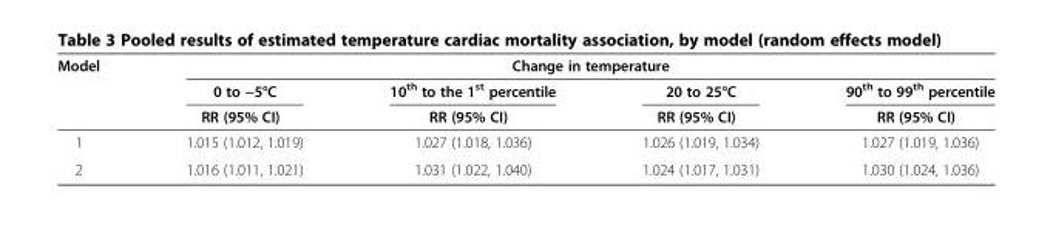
<table><thead><tr><td rowspan="3">Model</td><td colspan="4">Change in temperature</td></tr><tr><td rowspan="2">0 to −5°C RR (95% CI)</td><td rowspan="2">10<sup>th</sup> to the 1<sup>st</sup> percentile RR (95% CI)</td><td rowspan="2">20 to 25°C RR (95% CI)</td><td rowspan="2">90<sup>th</sup> to 99<sup>th</sup> percentile RR (95% CI)</td></tr><tr></tr></thead><tbody><tr><td>1</td><td>1.015 (1.012, 1.019)</td><td>1.027 (1.018, 1.036)</td><td>1.026 (1.019, 1.034)</td><td>1.027 (1.019, 1.036)</td></tr><tr><td>2</td><td>1.016 (1.011, 1.021)</td><td>1.031 (1.022, 1.040)</td><td>1.024 (1.017, 1.031)</td><td>1.030 (1.024, 1.036)</td></tr></tbody></table>